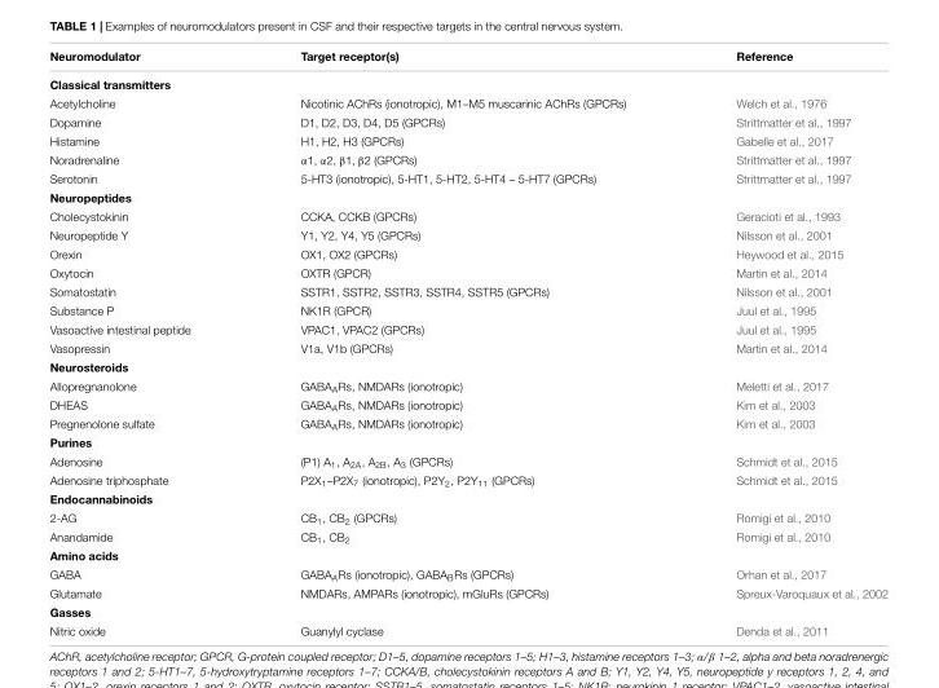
<table><thead><tr><td>Neuromodulator</td><td>Target receptor(s)</td><td>Reference</td></tr></thead><tbody><tr><td colspan="3">Classical transmitters</td></tr><tr><td>Acetylcholine</td><td>Nicotinic AChRs (ionotropic), M1–M5 muscarinic AChRs (GPCRs)</td><td>Welch et al., 1976</td></tr><tr><td>Dopamine</td><td>D1, D2, D3, D4, D5 (GPCRs)</td><td>Strittmatter et al., 1997</td></tr><tr><td>Histamine</td><td>H1, H2, H3 (GPCRs)</td><td>Gabelle et al., 2017</td></tr><tr><td>Noradrenaline</td><td>α1, α2, β1, β2 (GPCRs)</td><td>Strittmatter et al., 1997</td></tr><tr><td>Serotonin</td><td>5-HT3 (ionotropic), 5-HT1, 5-HT2, 5-HT4 – 5-HT7 (GPCRs)</td><td>Strittmatter et al., 1997</td></tr><tr><td colspan="3">Neuropeptides</td></tr><tr><td>Cholecystokinin</td><td>CCKA, CCKB (GPCRs)</td><td>Geracioti et al., 1993</td></tr><tr><td>Neuropeptide Y</td><td>Y1, Y2, Y4, Y5 (GPCRs)</td><td>Nilsson et al., 2001</td></tr><tr><td>Orexin</td><td>OX1, OX2 (GPCRs)</td><td>Heywood et al., 2015</td></tr><tr><td>Oxytocin</td><td>OXTR (GPCR)</td><td>Martin et al., 2014</td></tr><tr><td>Somatostatin</td><td>SSTR1, SSTR2, SSTR3, SSTR4, SSTR5 (GPCRs)</td><td>Nilsson et al., 2001</td></tr><tr><td>Substance P</td><td>NK1R (GPCR)</td><td>Juul et al., 1995</td></tr><tr><td>Vasoactive intestinal peptide</td><td>VPAC1, VPAC2 (GPCRs)</td><td>Juul et al., 1995</td></tr><tr><td>Vasopressin</td><td>V1a, V1b (GPCRs)</td><td>Martin et al., 2014</td></tr><tr><td colspan="3">Neurosteroids</td></tr><tr><td>Allopregnanolone</td><td>GABA<sub>A</sub>Rs, NMDARs (ionotropic)</td><td>Meletti et al., 2017</td></tr><tr><td>DHEAS</td><td>GABA<sub>A</sub>Rs, NMDARs (ionotropic)</td><td>Kim et al., 2003</td></tr><tr><td>Pregnenolone sulfate</td><td>GABA<sub>A</sub>Rs, NMDARs (ionotropic)</td><td>Kim et al., 2003</td></tr><tr><td colspan="3">Purines</td></tr><tr><td>Adenosine</td><td>(P1) A<sub>1</sub>, A<sub>2A</sub>, A<sub>2B</sub>, A<sub>3</sub> (GPCRs)</td><td>Schmidt et al., 2015</td></tr><tr><td>Adenosine triphosphate</td><td>P2X<sub>1</sub>–P2X<sub>7</sub> (ionotropic), P2Y<sub>2</sub>, P2Y<sub>11</sub> (GPCRs)</td><td>Schmidt et al., 2015</td></tr><tr><td colspan="3">Endocannabinoids</td></tr><tr><td>2-AG</td><td>CB<sub>1</sub>, CB<sub>2</sub> (GPCRs)</td><td>Romigi et al., 2010</td></tr><tr><td>Anandamide</td><td>CB<sub>1</sub>, CB<sub>2</sub></td><td>Romigi et al., 2010</td></tr><tr><td colspan="3">Amino acids</td></tr><tr><td>GABA</td><td>GABA<sub>A</sub>Rs (ionotropic), GABA<sub>B</sub>Rs (GPCRs)</td><td>Orhan et al., 2017</td></tr><tr><td>Glutamate</td><td>NMDARs, AMPARs (ionotropic), mGluRs (GPCRs)</td><td>Spreux-Varoquaux et al., 2002</td></tr><tr><td colspan="3">Gasses</td></tr><tr><td>Nitric oxide</td><td>Guanylyl cyclase</td><td>Denda et al., 2011</td></tr></tbody></table>